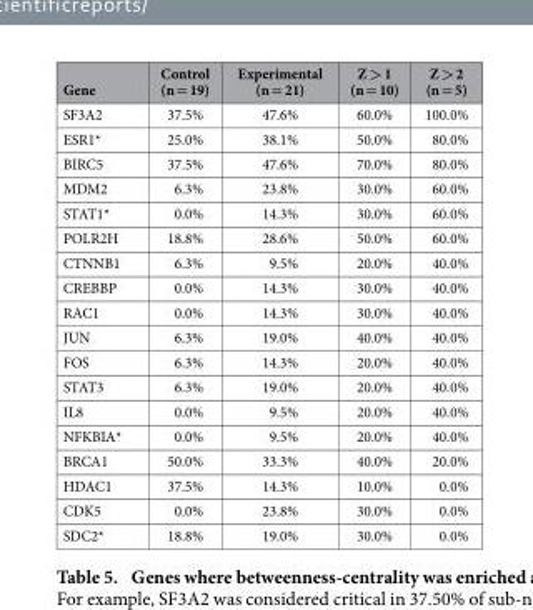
<table><thead><tr><td>Gene</td><td>Control (n = 19)</td><td>Experimental (n = 21)</td><td>Z &gt; 1 (n = 10)</td><td>Z &gt; 2 (n = 5)</td></tr></thead><tbody><tr><td>SF3A2</td><td>37.5%</td><td>47.6%</td><td>60.0%</td><td>100.0%</td></tr><tr><td>ESR1*</td><td>25.0%</td><td>38.1%</td><td>50.0%</td><td>80.0%</td></tr><tr><td>BIRC5</td><td>37.5%</td><td>47.6%</td><td>70.0%</td><td>80.0%</td></tr><tr><td>MDM2</td><td>6.3%</td><td>23.8%</td><td>30.0%</td><td>60.0%</td></tr><tr><td>STAT1*</td><td>0.0%</td><td>14.3%</td><td>30.0%</td><td>60.0%</td></tr><tr><td>POLR2H</td><td>18.8%</td><td>28.6%</td><td>50.0%</td><td>60.0%</td></tr><tr><td>CTNNB1</td><td>6.3%</td><td>9.5%</td><td>20.0%</td><td>40.0%</td></tr><tr><td>CREBBP</td><td>0.0%</td><td>14.3%</td><td>30.0%</td><td>40.0%</td></tr><tr><td>RAC1</td><td>0.0%</td><td>14.3%</td><td>30.0%</td><td>40.0%</td></tr><tr><td>JUN</td><td>6.3%</td><td>19.0%</td><td>40.0%</td><td>40.0%</td></tr><tr><td>FOS</td><td>6.3%</td><td>14.3%</td><td>20.0%</td><td>40.0%</td></tr><tr><td>STAT3</td><td>6.3%</td><td>19.0%</td><td>20.0%</td><td>40.0%</td></tr><tr><td>IL8</td><td>0.0%</td><td>9.5%</td><td>20.0%</td><td>40.0%</td></tr><tr><td>NFKBIA*</td><td>0.0%</td><td>9.5%</td><td>20.0%</td><td>40.0%</td></tr><tr><td>BRCA1</td><td>50.0%</td><td>33.3%</td><td>40.0%</td><td>20.0%</td></tr><tr><td>HDAC1</td><td>37.5%</td><td>14.3%</td><td>10.0%</td><td>0.0%</td></tr><tr><td>CDK5</td><td>0.0%</td><td>23.8%</td><td>30.0%</td><td>0.0%</td></tr><tr><td>SDC2*</td><td>18.8%</td><td>19.0%</td><td>30.0%</td><td>0.0%</td></tr></tbody></table>